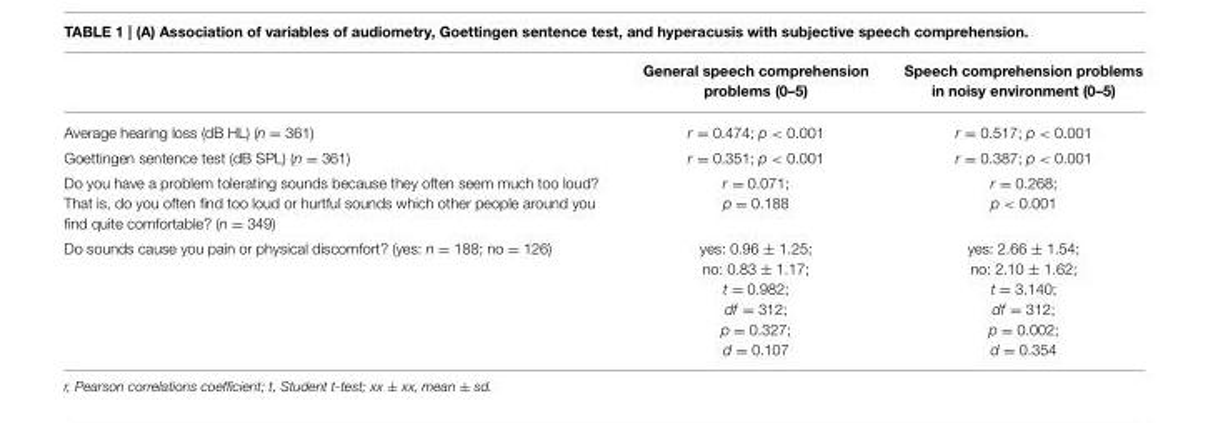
<table><thead><tr><td></td><td>General speech comprehension problems (0–5)</td><td>Speech comprehension problems in noisy environment (0–5)</td></tr></thead><tbody><tr><td>Average hearing loss (dB HL) (n = 361)</td><td>r = 0.474; p &lt; 0.001</td><td>r = 0.517; p &lt; 0.001</td></tr><tr><td>Goettingen sentence test (dB SPL) (n = 361)</td><td>r = 0.351; p &lt; 0.001</td><td>r = 0.387; p &lt; 0.001</td></tr><tr><td>Do you have a problem tolerating sounds because they often seem much too loud? That is, do you often find too loud or hurtful sounds which other people around you find quite comfortable? (n = 349)</td><td>r = 0.071; p = 0.188</td><td>r = 0.268; p &lt; 0.001</td></tr><tr><td>Do sounds cause you pain or physical discomfort? (yes: n = 188; no = 126)</td><td>yes: 0.96 ± 1.25; no: 0.83 ± 1.17; t = 0.982; df = 312; p = 0.327; d = 0.107</td><td>yes: 2.66 ± 1.54; no: 2.10 ± 1.62; t = 3.140; df = 312; p = 0.002; d = 0.354</td></tr></tbody></table>